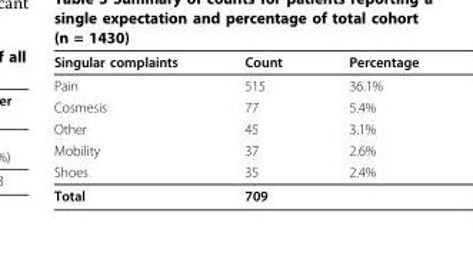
<table><thead><tr><td>Singular complaints</td><td>Count</td><td>Percentage</td></tr></thead><tbody><tr><td>Pain</td><td>515</td><td>36.1%</td></tr><tr><td>Cosmesis</td><td>77</td><td>5.4%</td></tr><tr><td>Other</td><td>45</td><td>3.1%</td></tr><tr><td>Mobility</td><td>37</td><td>2.6%</td></tr><tr><td>Shoes</td><td>35</td><td>2.4%</td></tr><tr><td>Total</td><td>709</td><td></td></tr></tbody></table>